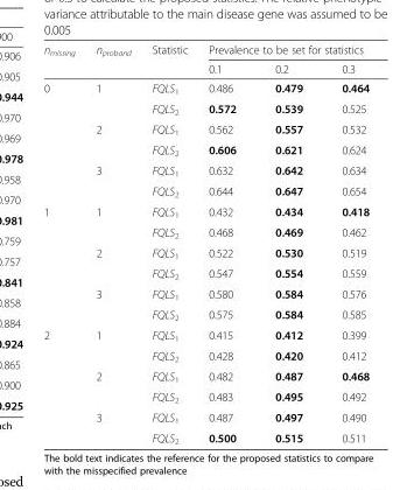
<table><thead><tr><td rowspan="2">n<sub>missing</sub></td><td rowspan="2">n<sub>proband</sub></td><td rowspan="2">Statistic</td><td colspan="3">Prevalence to be set for statistics</td></tr><tr><td>0.1</td><td>0.2</td><td>0.3</td></tr></thead><tbody><tr><td rowspan="6">0</td><td rowspan="2">1</td><td>FQLS<sub>1</sub></td><td>0.486</td><td>0.479</td><td>0.464</td></tr><tr><td>FQLS<sub>2</sub></td><td>0.572</td><td>0.539</td><td>0.525</td></tr><tr><td rowspan="2">2</td><td>FQLS<sub>1</sub></td><td>0.562</td><td>0.557</td><td>0.532</td></tr><tr><td>FQLS<sub>2</sub></td><td>0.606</td><td>0.621</td><td>0.624</td></tr><tr><td rowspan="2">3</td><td>FQLS<sub>1</sub></td><td>0.632</td><td>0.642</td><td>0.634</td></tr><tr><td>FQLS<sub>2</sub></td><td>0.644</td><td>0.647</td><td>0.654</td></tr><tr><td rowspan="6">1</td><td rowspan="2">1</td><td>FQLS<sub>1</sub></td><td>0.432</td><td>0.434</td><td>0.418</td></tr><tr><td>FQLS<sub>2</sub></td><td>0.468</td><td>0.469</td><td>0.462</td></tr><tr><td rowspan="2">2</td><td>FQLS<sub>1</sub></td><td>0.522</td><td>0.530</td><td>0.519</td></tr><tr><td>FQLS<sub>2</sub></td><td>0.547</td><td>0.554</td><td>0.559</td></tr><tr><td rowspan="2">3</td><td>FQLS<sub>1</sub></td><td>0.580</td><td>0.584</td><td>0.576</td></tr><tr><td>FQLS<sub>2</sub></td><td>0.575</td><td>0.584</td><td>0.585</td></tr><tr><td rowspan="6">2</td><td rowspan="2">1</td><td>FQLS<sub>1</sub></td><td>0.415</td><td>0.412</td><td>0.399</td></tr><tr><td>FQLS<sub>2</sub></td><td>0.428</td><td>0.420</td><td>0.412</td></tr><tr><td rowspan="2">2</td><td>FQLS<sub>1</sub></td><td>0.482</td><td>0.487</td><td>0.468</td></tr><tr><td>FQLS<sub>2</sub></td><td>0.483</td><td>0.495</td><td>0.492</td></tr><tr><td rowspan="2">3</td><td>FQLS<sub>1</sub></td><td>0.487</td><td>0.497</td><td>0.490</td></tr><tr><td>FQLS<sub>2</sub></td><td>0.500</td><td>0.515</td><td>0.511</td></tr></tbody></table>